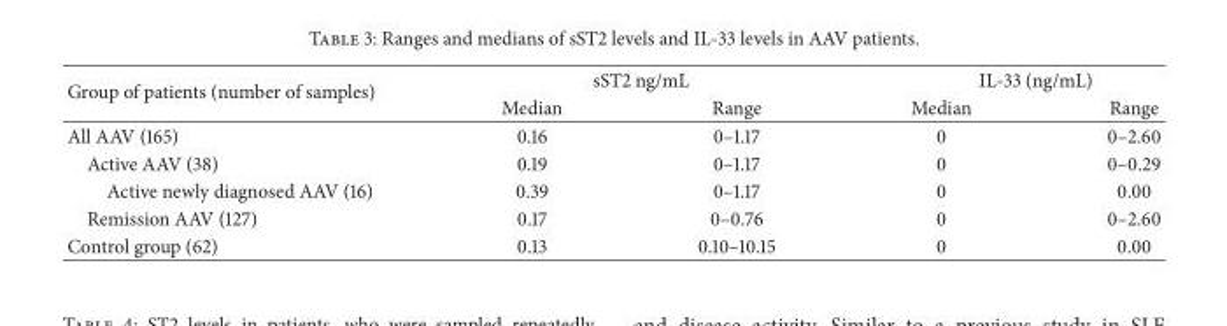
<table><thead><tr><td rowspan="2">Group of patients (number of samples)</td><td colspan="2">sST2 ng/mL</td><td colspan="2">IL-33 (ng/mL)</td></tr><tr><td>Median</td><td>Range</td><td>Median</td><td>Range</td></tr></thead><tbody><tr><td>All AAV (165)</td><td>0.16</td><td>0–1.17</td><td>0</td><td>0–2.60</td></tr><tr><td>Active AAV (38)</td><td>0.19</td><td>0–1.17</td><td>0</td><td>0–0.29</td></tr><tr><td>Active newly diagnosed AAV (16)</td><td>0.39</td><td>0–1.17</td><td>0</td><td>0.00</td></tr><tr><td>Remission AAV (127)</td><td>0.17</td><td>0–0.76</td><td>0</td><td>0–2.60</td></tr><tr><td>Control group (62)</td><td>0.13</td><td>0.10–10.15</td><td>0</td><td>0.00</td></tr></tbody></table>